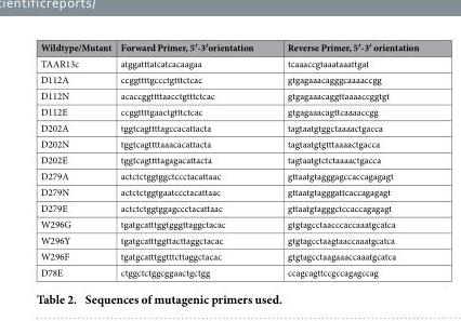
<table><thead><tr><td>Wildtype/Mutant</td><td>Forward Primer, 5′-3′orientation</td><td>Reverse Primer, 5′-3′ orientation</td></tr></thead><tbody><tr><td>TAAR13c</td><td>atggatttatcatcacaagaa</td><td>tcaaaccgtaaataaattgat</td></tr><tr><td>D112A</td><td>ccggttttgccctgtttctcac</td><td>gtgagaaacagggcaaaaccgg</td></tr><tr><td>D112N</td><td>acaccggttttaacctgtttctcac</td><td>gtgagaaacaggttaaaaccggtgt</td></tr><tr><td>D112E</td><td>ccggttttgaactgtttctcac</td><td>gtgagaaacagttcaaaaccgg</td></tr><tr><td>D202A</td><td>tggtcagttttagccacattacta</td><td>tagtaatgtggctaaaactgacca</td></tr><tr><td>D202N</td><td>tggtcagttttaaacacattacta</td><td>tagtaatgtgtttaaaactgacca</td></tr><tr><td>D202E</td><td>tggtcagttttagagacattacta</td><td>tagtaatgtctctaaaactgacca</td></tr><tr><td>D279A</td><td>actctctggtggctccctacattaac</td><td>gttaatgtagggagccaccagagagt</td></tr><tr><td>D279N</td><td>actctctggtgaatccctacattaac</td><td>gttaatgtagggattcaccagagagt</td></tr><tr><td>D279E</td><td>actctctggtggagccctacattaac</td><td>gttaatgtagggctccaccagagagt</td></tr><tr><td>W296G</td><td>tgatgcatttggtgggttaggctacac</td><td>gtgtagcctaacccaccaaatgcatca</td></tr><tr><td>W296Y</td><td>tgatgcatttggttacttaggctacac</td><td>gtgtagcctaagtaaccaaatgcatca</td></tr><tr><td>W296F</td><td>tgatgcatttggtttcttaggctacac</td><td>gtgtagcctaagaaaccaaatgcatca</td></tr><tr><td>D78E</td><td>ctggctctggcggaactgctgg</td><td>ccagcagttccgccagagccag</td></tr></tbody></table>